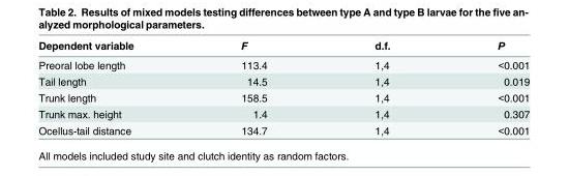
<table><thead><tr><td>Dependent variable</td><td>F</td><td>d.f.</td><td>P</td></tr></thead><tbody><tr><td>Preoral lobe length</td><td>113.4</td><td>1,4</td><td>&lt;0.001</td></tr><tr><td>Tail length</td><td>14.5</td><td>1,4</td><td>0.019</td></tr><tr><td>Trunk length</td><td>158.5</td><td>1,4</td><td>&lt;0.001</td></tr><tr><td>Trunk max. height</td><td>1.4</td><td>1,4</td><td>0.307</td></tr><tr><td>Ocellus-tail distance</td><td>134.7</td><td>1,4</td><td>&lt;0.001</td></tr></tbody></table>